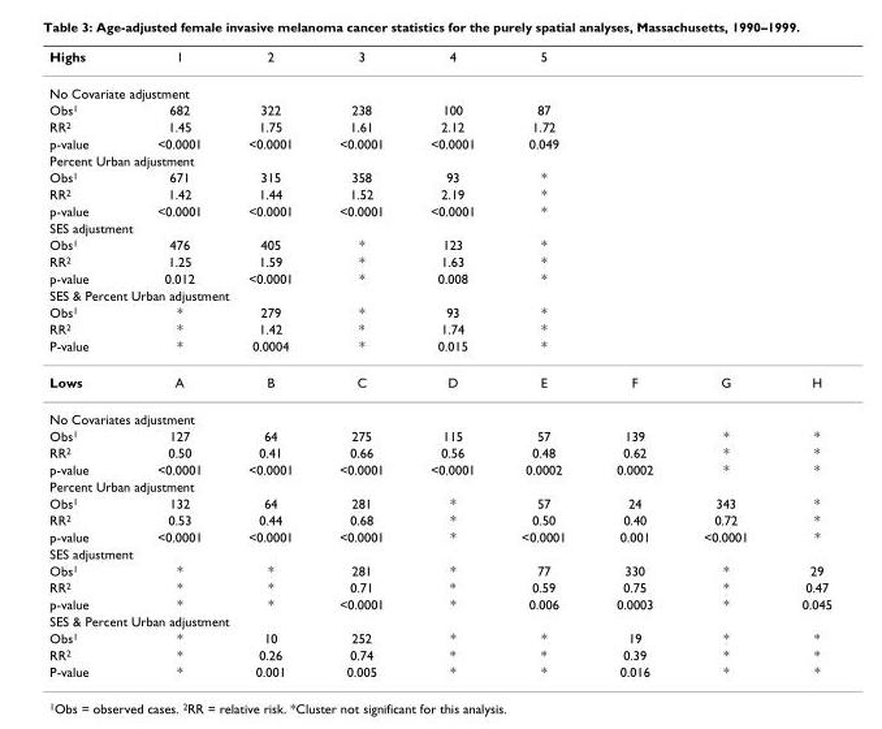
<table><thead><tr><td>Highs</td><td>1</td><td>2</td><td>3</td><td>4</td><td>5</td><td></td><td></td><td></td></tr></thead><tbody><tr><td colspan="9">No Covariate adjustment</td></tr><tr><td>Obs<sup>1</sup></td><td>682</td><td>322</td><td>238</td><td>100</td><td>87</td><td></td><td></td><td></td></tr><tr><td>RR<sup>2</sup></td><td>1.45</td><td>1.75</td><td>1.61</td><td>2.12</td><td>1.72</td><td></td><td></td><td></td></tr><tr><td>p-value</td><td>&lt;0.0001</td><td>&lt;0.0001</td><td>&lt;0.0001</td><td>&lt;0.0001</td><td>0.049</td><td></td><td></td><td></td></tr><tr><td colspan="9">Percent Urban adjustment</td></tr><tr><td>Obs<sup>1</sup></td><td>671</td><td>315</td><td>358</td><td>93</td><td>*</td><td></td><td></td><td></td></tr><tr><td>RR<sup>2</sup></td><td>1.42</td><td>1.44</td><td>1.52</td><td>2.19</td><td>*</td><td></td><td></td><td></td></tr><tr><td>p-value</td><td>&lt;0.0001</td><td>&lt;0.0001</td><td>&lt;0.0001</td><td>&lt;0.0001</td><td>*</td><td></td><td></td><td></td></tr><tr><td colspan="9">SES adjustment</td></tr><tr><td>Obs<sup>1</sup></td><td>476</td><td>405</td><td>*</td><td>123</td><td>*</td><td></td><td></td><td></td></tr><tr><td>RR<sup>2</sup></td><td>1.25</td><td>1.59</td><td>*</td><td>1.63</td><td>*</td><td></td><td></td><td></td></tr><tr><td>p-value</td><td>0.012</td><td>&lt;0.0001</td><td>*</td><td>0.008</td><td>*</td><td></td><td></td><td></td></tr><tr><td colspan="9">SES &amp; Percent Urban adjustment</td></tr><tr><td>Obs<sup>1</sup></td><td>*</td><td>279</td><td>*</td><td>93</td><td>*</td><td></td><td></td><td></td></tr><tr><td>RR<sup>2</sup></td><td>*</td><td>1.42</td><td>*</td><td>1.74</td><td>*</td><td></td><td></td><td></td></tr><tr><td>P-value</td><td>*</td><td>0.0004</td><td>*</td><td>0.015</td><td>*</td><td></td><td></td><td></td></tr><tr><td>Lows</td><td>A</td><td>B</td><td>C</td><td>D</td><td>E</td><td>F</td><td>G</td><td>H</td></tr><tr><td colspan="9">No Covariates adjustment</td></tr><tr><td>Obs<sup>1</sup></td><td>127</td><td>64</td><td>275</td><td>115</td><td>57</td><td>139</td><td>*</td><td>*</td></tr><tr><td>RR<sup>2</sup></td><td>0.50</td><td>0.41</td><td>0.66</td><td>0.56</td><td>0.48</td><td>0.62</td><td>*</td><td>*</td></tr><tr><td>p-value</td><td>&lt;0.0001</td><td>&lt;0.0001</td><td>&lt;0.0001</td><td>&lt;0.0001</td><td>0.0002</td><td>0.0002</td><td>*</td><td>*</td></tr><tr><td colspan="9">Percent Urban adjustment</td></tr><tr><td>Obs<sup>1</sup></td><td>132</td><td>64</td><td>281</td><td>*</td><td>57</td><td>24</td><td>343</td><td>*</td></tr><tr><td>RR<sup>2</sup></td><td>0.53</td><td>0.44</td><td>0.68</td><td>*</td><td>0.50</td><td>0.40</td><td>0.72</td><td>*</td></tr><tr><td>p-value</td><td>&lt;0.0001</td><td>&lt;0.0001</td><td>&lt;0.0001</td><td>*</td><td>&lt;0.0001</td><td>0.001</td><td>&lt;0.0001</td><td>*</td></tr><tr><td colspan="9">SES adjustment</td></tr><tr><td>Obs<sup>1</sup></td><td>*</td><td>*</td><td>281</td><td>*</td><td>77</td><td>330</td><td>*</td><td>29</td></tr><tr><td>RR<sup>2</sup></td><td>*</td><td>*</td><td>0.71</td><td>*</td><td>0.59</td><td>0.75</td><td>*</td><td>0.47</td></tr><tr><td>p-value</td><td>*</td><td>*</td><td>&lt;0.0001</td><td>*</td><td>0.006</td><td>0.0003</td><td>*</td><td>0.045</td></tr><tr><td colspan="9">SES &amp; Percent Urban adjustment</td></tr><tr><td>Obs<sup>1</sup></td><td>*</td><td>10</td><td>252</td><td>*</td><td>*</td><td>19</td><td>*</td><td>*</td></tr><tr><td>RR<sup>2</sup></td><td>*</td><td>0.26</td><td>0.74</td><td>*</td><td>*</td><td>0.39</td><td>*</td><td>*</td></tr><tr><td>P-value</td><td>*</td><td>0.001</td><td>0.005</td><td>*</td><td>*</td><td>0.016</td><td>*</td><td>*</td></tr></tbody></table>